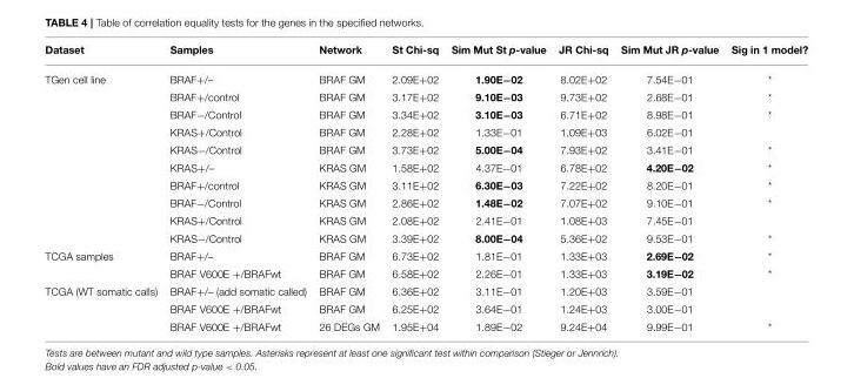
<table><thead><tr><td>Dataset</td><td>Samples</td><td>Network</td><td>St Chi-sq</td><td>Sim Mut St p-value</td><td>JR Chi-sq</td><td>Sim Mut JR p-value</td><td>Sig in 1 model?</td></tr></thead><tbody><tr><td rowspan="10">TGen cell line</td><td>BRAF+/–</td><td>BRAF GM</td><td>2.09E+02</td><td>1.90E−02</td><td>8.02E+02</td><td>7.54E−01</td><td>*</td></tr><tr><td>BRAF+/control</td><td>BRAF GM</td><td>3.17E+02</td><td>9.10E−03</td><td>9.73E+02</td><td>2.68E−01</td><td>*</td></tr><tr><td>BRAF−/Control</td><td>BRAF GM</td><td>3.34E+02</td><td>3.10E−03</td><td>6.71E+02</td><td>8.98E−01</td><td>*</td></tr><tr><td>KRAS+/Control</td><td>BRAF GM</td><td>2.28E+02</td><td>1.33E−01</td><td>1.09E+03</td><td>6.02E−01</td><td></td></tr><tr><td>KRAS−/Control</td><td>BRAF GM</td><td>3.73E+02</td><td>5.00E−04</td><td>7.93E+02</td><td>3.41E−01</td><td>*</td></tr><tr><td>KRAS+/–</td><td>KRAS GM</td><td>1.58E+02</td><td>4.37E−01</td><td>6.78E+02</td><td>4.20E−02</td><td>*</td></tr><tr><td>BRAF+/control</td><td>KRAS GM</td><td>3.11E+02</td><td>6.30E−03</td><td>7.22E+02</td><td>8.20E−01</td><td>*</td></tr><tr><td>BRAF−/Control</td><td>KRAS GM</td><td>2.86E+02</td><td>1.48E−02</td><td>7.07E+02</td><td>9.10E−01</td><td>*</td></tr><tr><td>KRAS+/Control</td><td>KRAS GM</td><td>2.08E+02</td><td>2.41E−01</td><td>1.08E+03</td><td>7.45E−01</td><td></td></tr><tr><td>KRAS−/Control</td><td>KRAS GM</td><td>3.39E+02</td><td>8.00E−04</td><td>5.36E+02</td><td>9.53E−01</td><td>*</td></tr><tr><td rowspan="2">TCGA samples</td><td>BRAF+/–</td><td>BRAF GM</td><td>6.73E+02</td><td>1.81E−01</td><td>1.33E+03</td><td>2.69E−02</td><td>*</td></tr><tr><td>BRAF V600E +/BRAFwt</td><td>BRAF GM</td><td>6.58E+02</td><td>2.26E−01</td><td>1.33E+03</td><td>3.19E−02</td><td>*</td></tr><tr><td rowspan="3">TCGA (WT somatic calls)</td><td>BRAF+/– (add somatic called)</td><td>BRAF GM</td><td>6.36E+02</td><td>3.11E−01</td><td>1.20E+03</td><td>3.59E−01</td><td></td></tr><tr><td>BRAF V600E +/BRAFwt</td><td>BRAF GM</td><td>6.25E+02</td><td>3.64E−01</td><td>1.24E+03</td><td>3.00E−01</td><td></td></tr><tr><td>BRAF V600E +/BRAFwt</td><td>26 DEGs GM</td><td>1.95E+04</td><td>1.89E−02</td><td>9.24E+04</td><td>9.99E−01</td><td>*</td></tr></tbody></table>